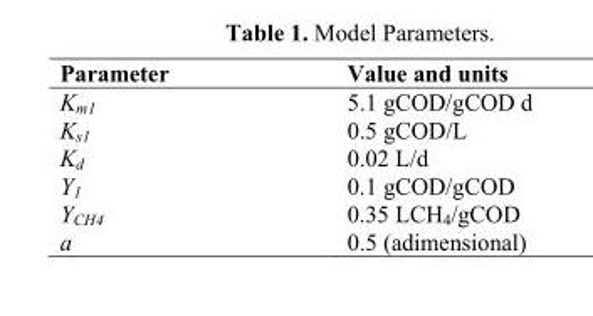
<table><thead><tr><td>Parameter</td><td>Value and units</td></tr></thead><tbody><tr><td>K<sub>m1</sub></td><td>5.1 gCOD/gCOD d</td></tr><tr><td>K<sub>s1</sub></td><td>0.5 gCOD/L</td></tr><tr><td>K<sub>d</sub></td><td>0.02 L/d</td></tr><tr><td>Y<sub>1</sub></td><td>0.1 gCOD/gCOD</td></tr><tr><td>Y<sub>CH4</sub></td><td>0.35 LCH<sub>4</sub>/gCOD</td></tr><tr><td>a</td><td>0.5 (adimensional)</td></tr></tbody></table>